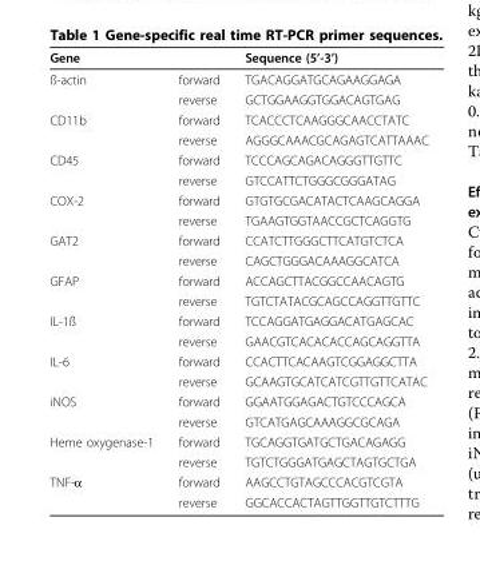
<table><thead><tr><td>Gene</td><td></td><td>Sequence (5’-3’)</td></tr></thead><tbody><tr><td rowspan="2">ß-actin</td><td>forward</td><td>TGACAGGATGCAGAAGGAGA</td></tr><tr><td>reverse</td><td>GCTGGAAGGTGGACAGTGAG</td></tr><tr><td rowspan="2">CD11b</td><td>forward</td><td>TCACCCTCAAGGGCAACCTATC</td></tr><tr><td>reverse</td><td>AGGGCAAACGCAGAGTCATTAAAC</td></tr><tr><td rowspan="2">CD45</td><td>forward</td><td>TCCCAGCAGACAGGGTTGTTC</td></tr><tr><td>reverse</td><td>GTCCATTCTGGGCGGGATAG</td></tr><tr><td rowspan="2">COX-2</td><td>forward</td><td>GTGTGCGACATACTCAAGCAGGA</td></tr><tr><td>reverse</td><td>TGAAGTGGTAACCGCTCAGGTG</td></tr><tr><td rowspan="2">GAT2</td><td>forward</td><td>CCATCTTGGGCTTCATGTCTCA</td></tr><tr><td>reverse</td><td>CAGCTGGGACAAAGGCATCA</td></tr><tr><td rowspan="2">GFAP</td><td>forward</td><td>ACCAGCTTACGGCCAACAGTG</td></tr><tr><td>reverse</td><td>TGTCTATACGCAGCCAGGTTGTTC</td></tr><tr><td rowspan="2">IL-1ß</td><td>forward</td><td>TCCAGGATGAGGACATGAGCAC</td></tr><tr><td>reverse</td><td>GAACGTCACACACCAGCAGGTTA</td></tr><tr><td rowspan="2">IL-6</td><td>forward</td><td>CCACTTCACAAGTCGGAGGCTTA</td></tr><tr><td>reverse</td><td>GCAAGTGCATCATCGTTGTTCATAC</td></tr><tr><td rowspan="2">iNOS</td><td>forward</td><td>GGAATGGAGACTGTCCCAGCA</td></tr><tr><td>reverse</td><td>GTCATGAGCAAAGGCGCAGA</td></tr><tr><td rowspan="2">Heme oxygenase-1</td><td>forward</td><td>TGCAGGTGATGCTGACAGAGG</td></tr><tr><td>reverse</td><td>TGTCTGGGATGAGCTAGTGCTGA</td></tr><tr><td rowspan="2">TNF-α</td><td>forward</td><td>AAGCCTGTAGCCCACGTCGTA</td></tr><tr><td>reverse</td><td>GGCACCACTAGTTGGTTGTCTTTG</td></tr></tbody></table>